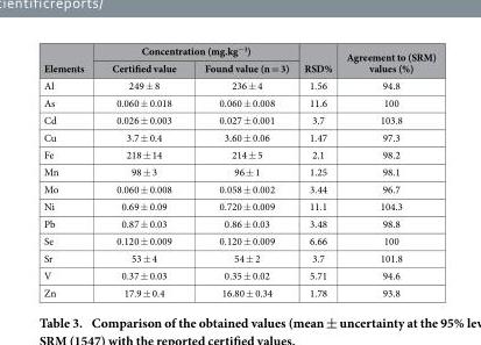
<table><thead><tr><td rowspan="2">Elements</td><td colspan="2">Concentration (mg.kg<sup>−1</sup>)</td><td rowspan="2">RSD%</td><td rowspan="2">Agreement to (SRM) values (%)</td></tr><tr><td>Certified value</td><td>Found value (n = 3)</td></tr></thead><tbody><tr><td>Al</td><td>249 ± 8</td><td>236 ± 4</td><td>1.56</td><td>94.8</td></tr><tr><td>As</td><td>0.060 ± 0.018</td><td>0.060 ± 0.008</td><td>11.6</td><td>100</td></tr><tr><td>Cd</td><td>0.026 ± 0.003</td><td>0.027 ± 0.001</td><td>3.7</td><td>103.8</td></tr><tr><td>Cu</td><td>3.7 ± 0.4</td><td>3.60 ± 0.06</td><td>1.47</td><td>97.3</td></tr><tr><td>Fe</td><td>218 ± 14</td><td>214 ± 5</td><td>2.1</td><td>98.2</td></tr><tr><td>Mn</td><td>98 ± 3</td><td>96 ± 1</td><td>1.25</td><td>98.1</td></tr><tr><td>Mo</td><td>0.060 ± 0.008</td><td>0.058 ± 0.002</td><td>3.44</td><td>96.7</td></tr><tr><td>Ni</td><td>0.69 ± 0.09</td><td>0.720 ± 0.009</td><td>11.1</td><td>104.3</td></tr><tr><td>Pb</td><td>0.87 ± 0.03</td><td>0.86 ± 0.03</td><td>3.48</td><td>98.8</td></tr><tr><td>Se</td><td>0.120 ± 0.009</td><td>0.120 ± 0.009</td><td>6.66</td><td>100</td></tr><tr><td>Sr</td><td>53 ± 4</td><td>54 ± 2</td><td>3.7</td><td>101.8</td></tr><tr><td>V</td><td>0.37 ± 0.03</td><td>0.35 ± 0.02</td><td>5.71</td><td>94.6</td></tr><tr><td>Zn</td><td>17.9 ± 0.4</td><td>16.80 ± 0.34</td><td>1.78</td><td>93.8</td></tr></tbody></table>